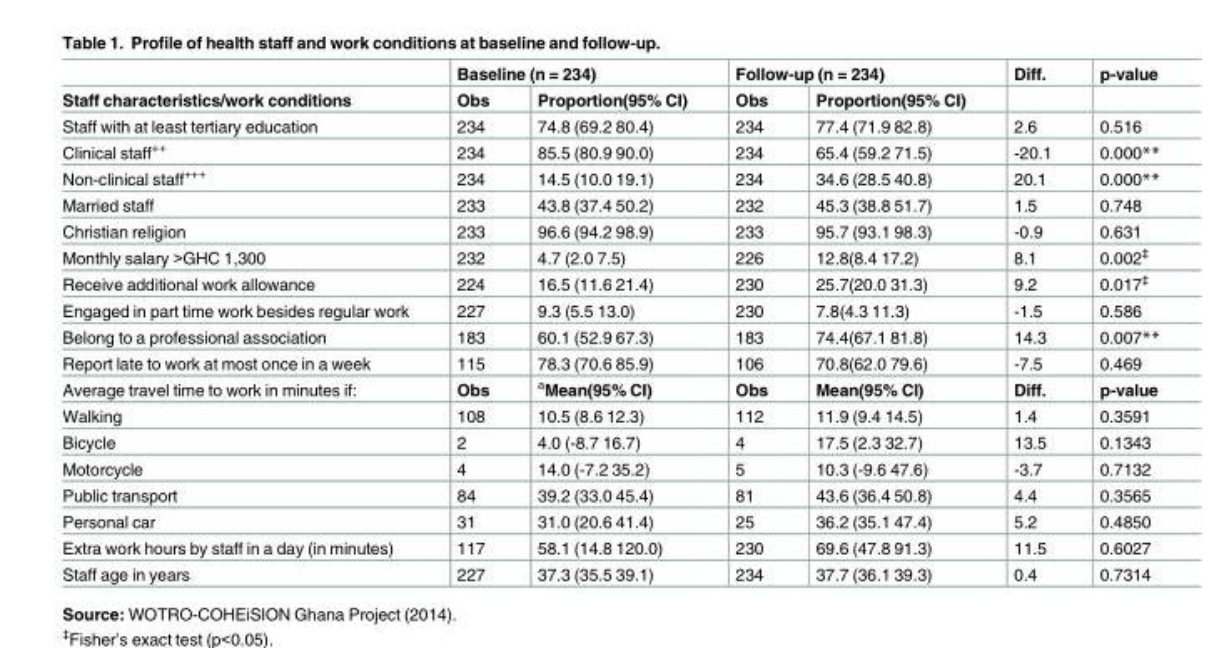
<table><thead><tr><td rowspan="2">Staff characteristics/work conditions</td><td colspan="2">Baseline (n = 234)</td><td colspan="2">Follow-up (n = 234)</td><td rowspan="2">Diff.</td><td rowspan="2">p-value</td></tr><tr><td>Obs</td><td>Proportion(95% CI)</td><td>Obs</td><td>Proportion(95% CI)</td></tr></thead><tbody><tr><td>Staff with at least tertiary education</td><td>234</td><td>74.8 (69.2 80.4)</td><td>234</td><td>77.4 (71.9 82.8)</td><td>2.6</td><td>0.516</td></tr><tr><td>Clinical staff<sup>++</sup></td><td>234</td><td>85.5 (80.9 90.0)</td><td>234</td><td>65.4 (59.2 71.5)</td><td>-20.1</td><td>0.000**</td></tr><tr><td>Non-clinical staff<sup>+++</sup></td><td>234</td><td>14.5 (10.0 19.1)</td><td>234</td><td>34.6 (28.5 40.8)</td><td>20.1</td><td>0.000**</td></tr><tr><td>Married staff</td><td>233</td><td>43.8 (37.4 50.2)</td><td>232</td><td>45.3 (38.8 51.7)</td><td>1.5</td><td>0.748</td></tr><tr><td>Christian religion</td><td>233</td><td>96.6 (94.2 98.9)</td><td>233</td><td>95.7 (93.1 98.3)</td><td>-0.9</td><td>0.631</td></tr><tr><td>Monthly salary &gt;GHC 1,300</td><td>232</td><td>4.7 (2.0 7.5)</td><td>226</td><td>12.8(8.4 17.2)</td><td>8.1</td><td>0.002<sup>‡</sup></td></tr><tr><td>Receive additional work allowance</td><td>224</td><td>16.5 (11.6 21.4)</td><td>230</td><td>25.7(20.0 31.3)</td><td>9.2</td><td>0.017<sup>‡</sup></td></tr><tr><td>Engaged in part time work besides regular work</td><td>227</td><td>9.3 (5.5 13.0)</td><td>230</td><td>7.8(4.3 11.3)</td><td>-1.5</td><td>0.586</td></tr><tr><td>Belong to a professional association</td><td>183</td><td>60.1 (52.9 67.3)</td><td>183</td><td>74.4(67.1 81.8)</td><td>14.3</td><td>0.007**</td></tr><tr><td>Report late to work at most once in a week</td><td>115</td><td>78.3 (70.6 85.9)</td><td>106</td><td>70.8(62.0 79.6)</td><td>-7.5</td><td>0.469</td></tr><tr><td>Average travel time to work in minutes if:</td><td>Obs</td><td><sup>a</sup>Mean(95% CI)</td><td>Obs</td><td>Mean(95% CI)</td><td>Diff.</td><td>p-value</td></tr><tr><td>Walking</td><td>108</td><td>10.5 (8.6 12.3)</td><td>112</td><td>11.9 (9.4 14.5)</td><td>1.4</td><td>0.3591</td></tr><tr><td>Bicycle</td><td>2</td><td>4.0 (-8.7 16.7)</td><td>4</td><td>17.5 (2.3 32.7)</td><td>13.5</td><td>0.1343</td></tr><tr><td>Motorcycle</td><td>4</td><td>14.0 (-7.2 35.2)</td><td>5</td><td>10.3 (-9.6 47.6)</td><td>-3.7</td><td>0.7132</td></tr><tr><td>Public transport</td><td>84</td><td>39.2 (33.0 45.4)</td><td>81</td><td>43.6 (36.4 50.8)</td><td>4.4</td><td>0.3565</td></tr><tr><td>Personal car</td><td>31</td><td>31.0 (20.6 41.4)</td><td>25</td><td>36.2 (35.1 47.4)</td><td>5.2</td><td>0.4850</td></tr><tr><td>Extra work hours by staff in a day (in minutes)</td><td>117</td><td>58.1 (14.8 120.0)</td><td>230</td><td>69.6 (47.8 91.3)</td><td>11.5</td><td>0.6027</td></tr><tr><td>Staff age in years</td><td>227</td><td>37.3 (35.5 39.1)</td><td>234</td><td>37.7 (36.1 39.3)</td><td>0.4</td><td>0.7314</td></tr></tbody></table>